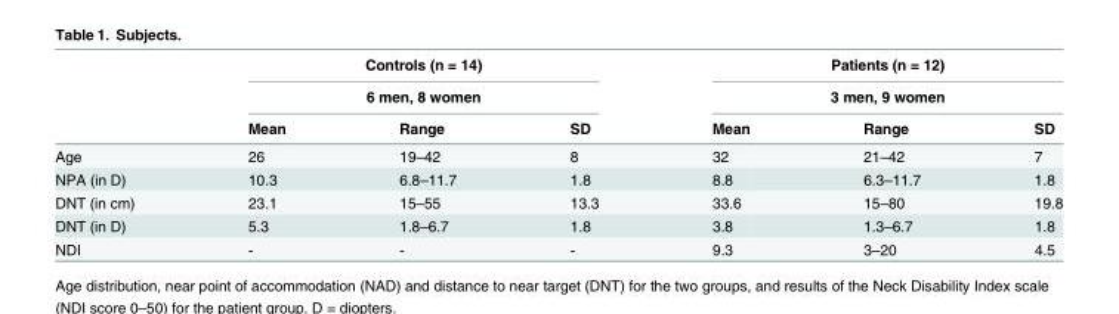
<table><thead><tr><td rowspan="3"></td><td rowspan="2" colspan="3">Controls (n = 14) 6 men, 8 women</td><td rowspan="2" colspan="3">Patients (n = 12) 3 men, 9 women</td></tr><tr></tr><tr><td>Mean</td><td>Range</td><td>SD</td><td>Mean</td><td>Range</td><td>SD</td></tr></thead><tbody><tr><td>Age</td><td>26</td><td>19–42</td><td>8</td><td>32</td><td>21–42</td><td>7</td></tr><tr><td>NPA (in D)</td><td>10.3</td><td>6.8–11.7</td><td>1.8</td><td>8.8</td><td>6.3–11.7</td><td>1.8</td></tr><tr><td>DNT (in cm)</td><td>23.1</td><td>15–55</td><td>13.3</td><td>33.6</td><td>15–80</td><td>19.8</td></tr><tr><td>DNT (in D)</td><td>5.3</td><td>1.8–6.7</td><td>1.8</td><td>3.8</td><td>1.3–6.7</td><td>1.8</td></tr><tr><td>NDI</td><td>-</td><td>-</td><td>-</td><td>9.3</td><td>3–20</td><td>4.5</td></tr></tbody></table>